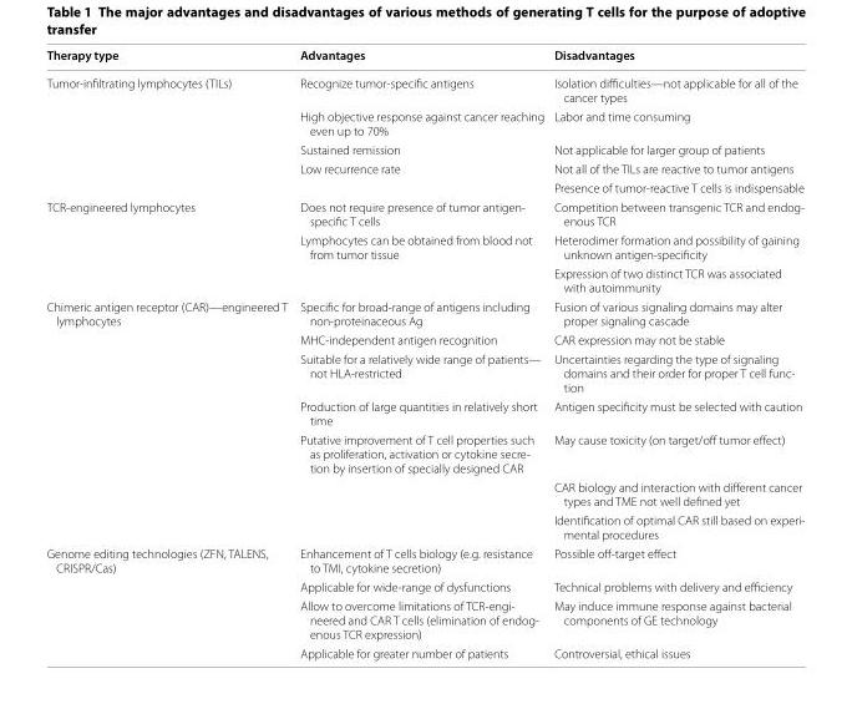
<table><thead><tr><td>Therapy type</td><td>Advantages</td><td>Disadvantages</td></tr></thead><tbody><tr><td rowspan="5">Tumor-infiltrating lymphocytes (TILs)</td><td>Recognize tumor-specific antigens</td><td>Isolation difficulties—not applicable for all of the cancer types</td></tr><tr><td>High objective response against cancer reaching even up to 70%</td><td>Labor and time consuming</td></tr><tr><td>Sustained remission</td><td>Not applicable for larger group of patients</td></tr><tr><td>Low recurrence rate</td><td>Not all of the TILs are reactive to tumor antigens</td></tr><tr><td></td><td>Presence of tumor-reactive T cells is indispensable</td></tr><tr><td rowspan="3">TCR-engineered lymphocytes</td><td>Does not require presence of tumor antigen- specific T cells</td><td>Competition between transgenic TCR and endog- enous TCR</td></tr><tr><td>Lymphocytes can be obtained from blood not from tumor tissue</td><td>Heterodimer formation and possibility of gaining unknown antigen-specificity</td></tr><tr><td></td><td>Expression of two distinct TCR was associated with autoimmunity</td></tr><tr><td rowspan="7">Chimeric antigen receptor (CAR)—engineered T lymphocytes</td><td>Specific for broad-range of antigens including non-proteinaceous Ag</td><td>Fusion of various signaling domains may alter proper signaling cascade</td></tr><tr><td>MHC-independent antigen recognition</td><td>CAR expression may not be stable</td></tr><tr><td>Suitable for a relatively wide range of patients— not HLA-restricted</td><td>Uncertainties regarding the type of signaling domains and their order for proper T cell func- tion</td></tr><tr><td>Production of large quantities in relatively short time</td><td>Antigen specificity must be selected with caution</td></tr><tr><td>Putative improvement of T cell properties such as proliferation, activation or cytokine secre- tion by insertion of specially designed CAR</td><td>May cause toxicity (on target/off tumor effect)</td></tr><tr><td></td><td>CAR biology and interaction with different cancer types and TME not well defined yet</td></tr><tr><td></td><td>Identification of optimal CAR still based on experi- mental procedures</td></tr><tr><td rowspan="4">Genome editing technologies (ZFN, TALENS, CRISPR/Cas)</td><td>Enhancement of T cells biology (e.g. resistance to TMI, cytokine secretion)</td><td>Possible off-target effect</td></tr><tr><td>Applicable for wide-range of dysfunctions</td><td>Technical problems with delivery and efficiency</td></tr><tr><td>Allow to overcome limitations of TCR-engi- neered and CAR T cells (elimination of endog- enous TCR expression)</td><td>May induce immune response against bacterial components of GE technology</td></tr><tr><td>Applicable for greater number of patients</td><td>Controversial, ethical issues</td></tr></tbody></table>